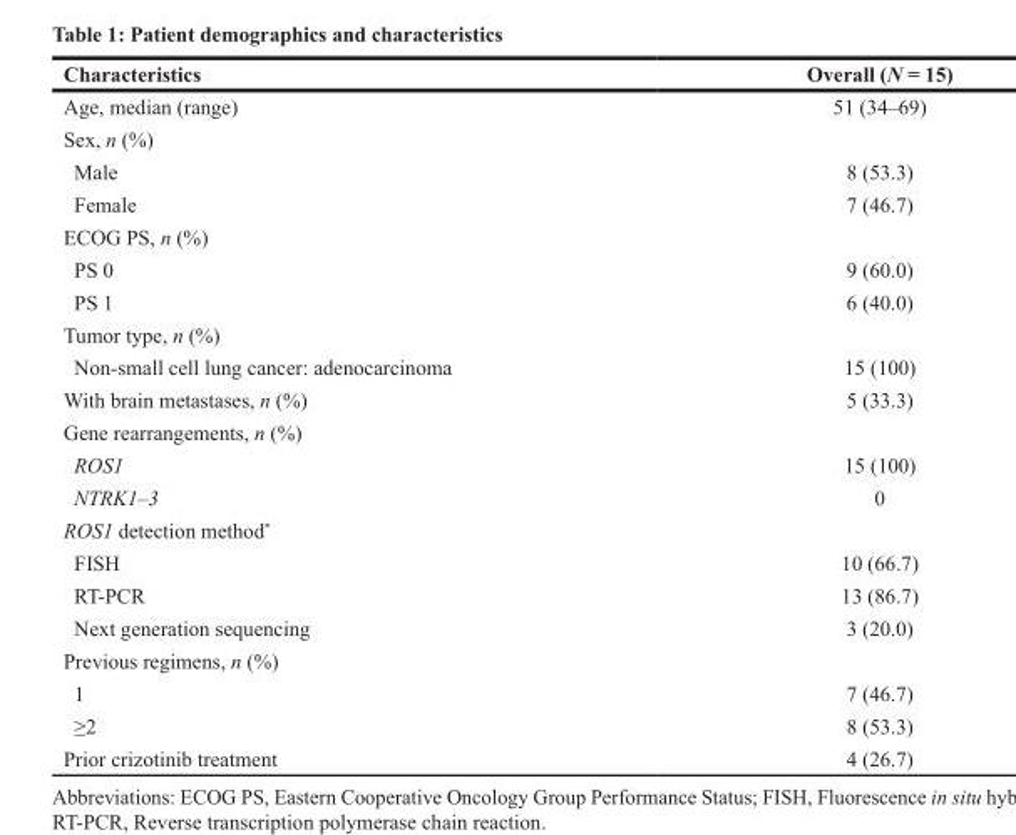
<table><thead><tr><td>Characteristics</td><td>Overall (N = 15)</td></tr></thead><tbody><tr><td>Age, median (range)</td><td>51 (34–69)</td></tr><tr><td colspan="2">Sex, n (%)</td></tr><tr><td>Male</td><td>8 (53.3)</td></tr><tr><td>Female</td><td>7 (46.7)</td></tr><tr><td colspan="2">ECOG PS, n (%)</td></tr><tr><td>PS 0</td><td>9 (60.0)</td></tr><tr><td>PS 1</td><td>6 (40.0)</td></tr><tr><td colspan="2">Tumor type, n (%)</td></tr><tr><td>Non-small cell lung cancer: adenocarcinoma</td><td>15 (100)</td></tr><tr><td>With brain metastases, n (%)</td><td>5 (33.3)</td></tr><tr><td colspan="2">Gene rearrangements, n (%)</td></tr><tr><td>ROS1</td><td>15 (100)</td></tr><tr><td>NTRK1–3</td><td>0</td></tr><tr><td colspan="2">ROS1 detection method*</td></tr><tr><td>FISH</td><td>10 (66.7)</td></tr><tr><td>RT-PCR</td><td>13 (86.7)</td></tr><tr><td>Next generation sequencing</td><td>3 (20.0)</td></tr><tr><td colspan="2">Previous regimens, n (%)</td></tr><tr><td>1</td><td>7 (46.7)</td></tr><tr><td>≥2</td><td>8 (53.3)</td></tr><tr><td>Prior crizotinib treatment</td><td>4 (26.7)</td></tr></tbody></table>